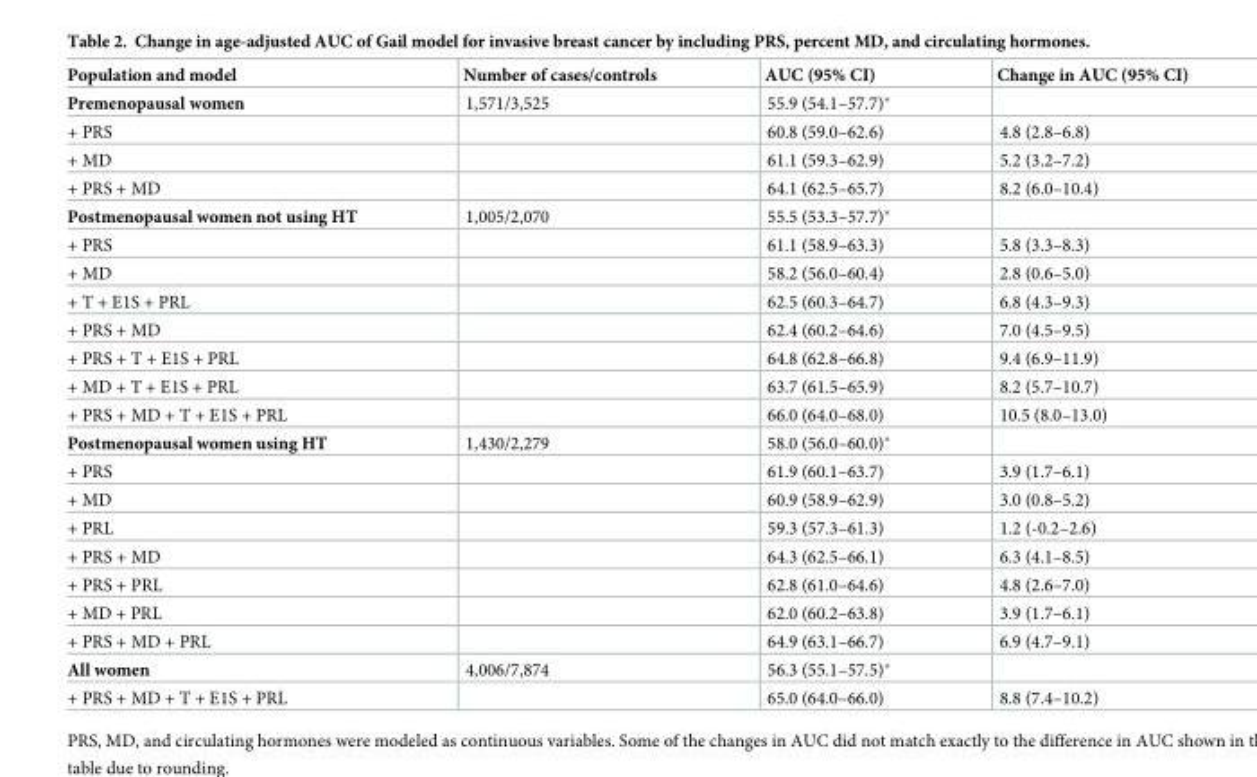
<table><thead><tr><td>Population and model</td><td>Number of cases/controls</td><td>AUC (95% CI)</td><td>Change in AUC (95% CI)</td></tr></thead><tbody><tr><td>Premenopausal women</td><td>1,571/3,525</td><td>55.9 (54.1–57.7)*</td><td></td></tr><tr><td>+ PRS</td><td></td><td>60.8 (59.0–62.6)</td><td>4.8 (2.8–6.8)</td></tr><tr><td>+ MD</td><td></td><td>61.1 (59.3–62.9)</td><td>5.2 (3.2–7.2)</td></tr><tr><td>+ PRS + MD</td><td></td><td>64.1 (62.5–65.7)</td><td>8.2 (6.0–10.4)</td></tr><tr><td>Postmenopausal women not using HT</td><td>1,005/2,070</td><td>55.5 (53.3–57.7)*</td><td></td></tr><tr><td>+ PRS</td><td></td><td>61.1 (58.9–63.3)</td><td>5.8 (3.3–8.3)</td></tr><tr><td>+ MD</td><td></td><td>58.2 (56.0–60.4)</td><td>2.8 (0.6–5.0)</td></tr><tr><td>+ T + E1S + PRL</td><td></td><td>62.5 (60.3–64.7)</td><td>6.8 (4.3–9.3)</td></tr><tr><td>+ PRS + MD</td><td></td><td>62.4 (60.2–64.6)</td><td>7.0 (4.5–9.5)</td></tr><tr><td>+ PRS + T + E1S + PRL</td><td></td><td>64.8 (62.8–66.8)</td><td>9.4 (6.9–11.9)</td></tr><tr><td>+ MD + T + E1S + PRL</td><td></td><td>63.7 (61.5–65.9)</td><td>8.2 (5.7–10.7)</td></tr><tr><td>+ PRS + MD + T + E1S + PRL</td><td></td><td>66.0 (64.0–68.0)</td><td>10.5 (8.0–13.0)</td></tr><tr><td>Postmenopausal women using HT</td><td>1,430/2,279</td><td>58.0 (56.0–60.0)*</td><td></td></tr><tr><td>+ PRS</td><td></td><td>61.9 (60.1–63.7)</td><td>3.9 (1.7–6.1)</td></tr><tr><td>+ MD</td><td></td><td>60.9 (58.9–62.9)</td><td>3.0 (0.8–5.2)</td></tr><tr><td>+ PRL</td><td></td><td>59.3 (57.3–61.3)</td><td>1.2 (-0.2–2.6)</td></tr><tr><td>+ PRS + MD</td><td></td><td>64.3 (62.5–66.1)</td><td>6.3 (4.1–8.5)</td></tr><tr><td>+ PRS + PRL</td><td></td><td>62.8 (61.0–64.6)</td><td>4.8 (2.6–7.0)</td></tr><tr><td>+ MD + PRL</td><td></td><td>62.0 (60.2–63.8)</td><td>3.9 (1.7–6.1)</td></tr><tr><td>+ PRS + MD + PRL</td><td></td><td>64.9 (63.1–66.7)</td><td>6.9 (4.7–9.1)</td></tr><tr><td>All women</td><td>4,006/7,874</td><td>56.3 (55.1–57.5)*</td><td></td></tr><tr><td>+ PRS + MD + T + E1S + PRL</td><td></td><td>65.0 (64.0–66.0)</td><td>8.8 (7.4–10.2)</td></tr></tbody></table>